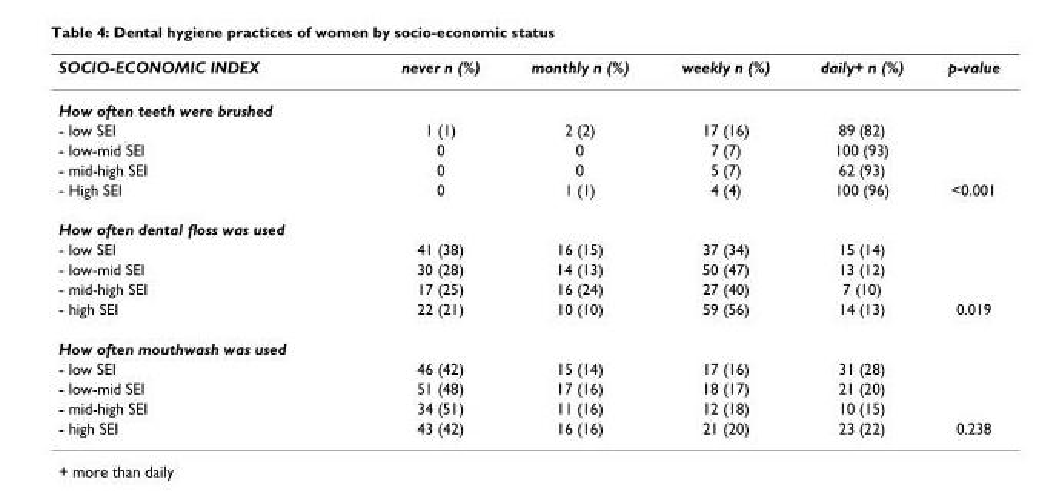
<table><thead><tr><td>SOCIO-ECONOMIC INDEX</td><td>never n (%)</td><td>monthly n (%)</td><td>weekly n (%)</td><td>daily+ n (%)</td><td>p-value</td></tr></thead><tbody><tr><td colspan="6">How often teeth were brushed</td></tr><tr><td>- low SEI</td><td>1 (1)</td><td>2 (2)</td><td>17 (16)</td><td>89 (82)</td><td></td></tr><tr><td>- low-mid SEI</td><td>0</td><td>0</td><td>7 (7)</td><td>100 (93)</td><td></td></tr><tr><td>- mid-high SEI</td><td>0</td><td>0</td><td>5 (7)</td><td>62 (93)</td><td></td></tr><tr><td>- High SEI</td><td>0</td><td>1 (1)</td><td>4 (4)</td><td>100 (96)</td><td>&lt;0.001</td></tr><tr><td colspan="6">How often dental floss was used</td></tr><tr><td>- low SEI</td><td>41 (38)</td><td>16 (15)</td><td>37 (34)</td><td>15 (14)</td><td></td></tr><tr><td>- low-mid SEI</td><td>30 (28)</td><td>14 (13)</td><td>50 (47)</td><td>13 (12)</td><td></td></tr><tr><td>- mid-high SEI</td><td>17 (25)</td><td>16 (24)</td><td>27 (40)</td><td>7 (10)</td><td></td></tr><tr><td>- high SEI</td><td>22 (21)</td><td>10 (10)</td><td>59 (56)</td><td>14 (13)</td><td>0.019</td></tr><tr><td colspan="6">How often mouthwash was used</td></tr><tr><td>- low SEI</td><td>46 (42)</td><td>15 (14)</td><td>17 (16)</td><td>31 (28)</td><td></td></tr><tr><td>- low-mid SEI</td><td>51 (48)</td><td>17 (16)</td><td>18 (17)</td><td>21 (20)</td><td></td></tr><tr><td>- mid-high SEI</td><td>34 (51)</td><td>11 (16)</td><td>12 (18)</td><td>10 (15)</td><td></td></tr><tr><td>- high SEI</td><td>43 (42)</td><td>16 (16)</td><td>21 (20)</td><td>23 (22)</td><td>0.238</td></tr></tbody></table>